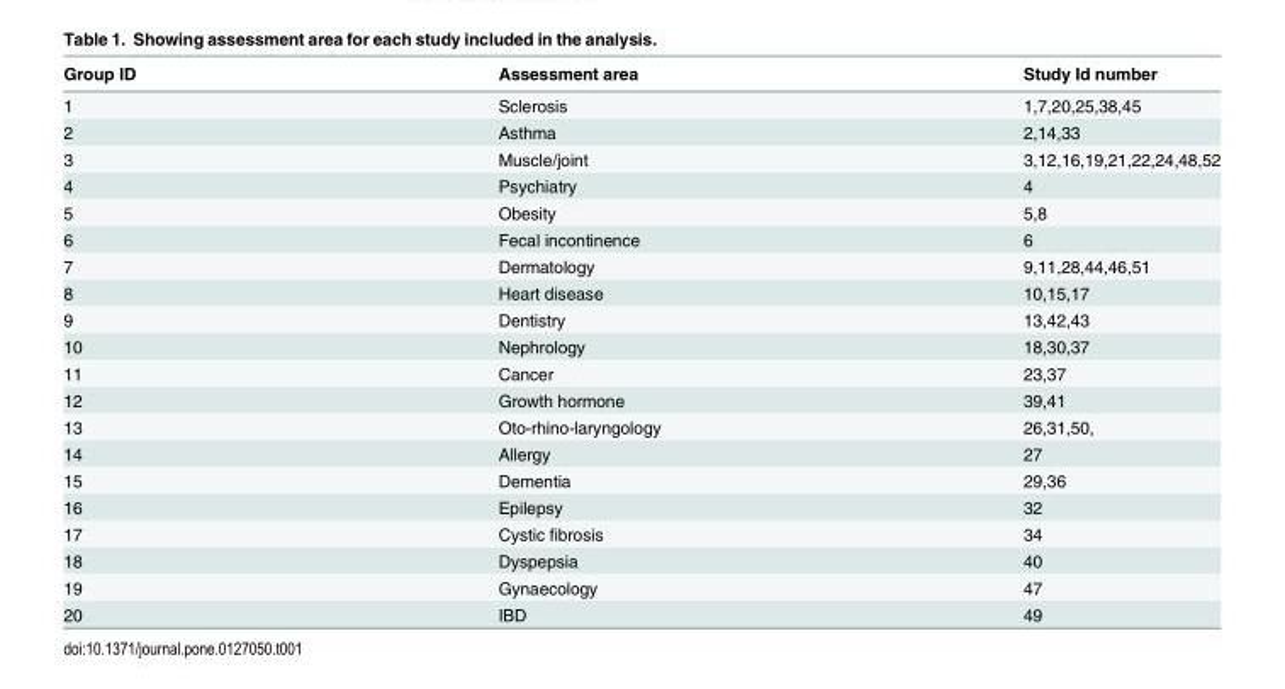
<table><thead><tr><td>Group ID</td><td>Assessment area</td><td>Study Id number</td></tr></thead><tbody><tr><td>1</td><td>Sclerosis</td><td>1,7,20,25,38,45</td></tr><tr><td>2</td><td>Asthma</td><td>2,14,33</td></tr><tr><td>3</td><td>Muscle/joint</td><td>3,12,16,19,21,22,24,48,52</td></tr><tr><td>4</td><td>Psychiatry</td><td>4</td></tr><tr><td>5</td><td>Obesity</td><td>5,8</td></tr><tr><td>6</td><td>Fecal incontinence</td><td>6</td></tr><tr><td>7</td><td>Dermatology</td><td>9,11,28,44,46,51</td></tr><tr><td>8</td><td>Heart disease</td><td>10,15,17</td></tr><tr><td>9</td><td>Dentistry</td><td>13,42,43</td></tr><tr><td>10</td><td>Nephrology</td><td>18,30,37</td></tr><tr><td>11</td><td>Cancer</td><td>23,37</td></tr><tr><td>12</td><td>Growth hormone</td><td>39,41</td></tr><tr><td>13</td><td>Oto-rhino-laryngology</td><td>26,31,50,</td></tr><tr><td>14</td><td>Allergy</td><td>27</td></tr><tr><td>15</td><td>Dementia</td><td>29,36</td></tr><tr><td>16</td><td>Epilepsy</td><td>32</td></tr><tr><td>17</td><td>Cystic fibrosis</td><td>34</td></tr><tr><td>18</td><td>Dyspepsia</td><td>40</td></tr><tr><td>19</td><td>Gynaecology</td><td>47</td></tr><tr><td>20</td><td>IBD</td><td>49</td></tr></tbody></table>